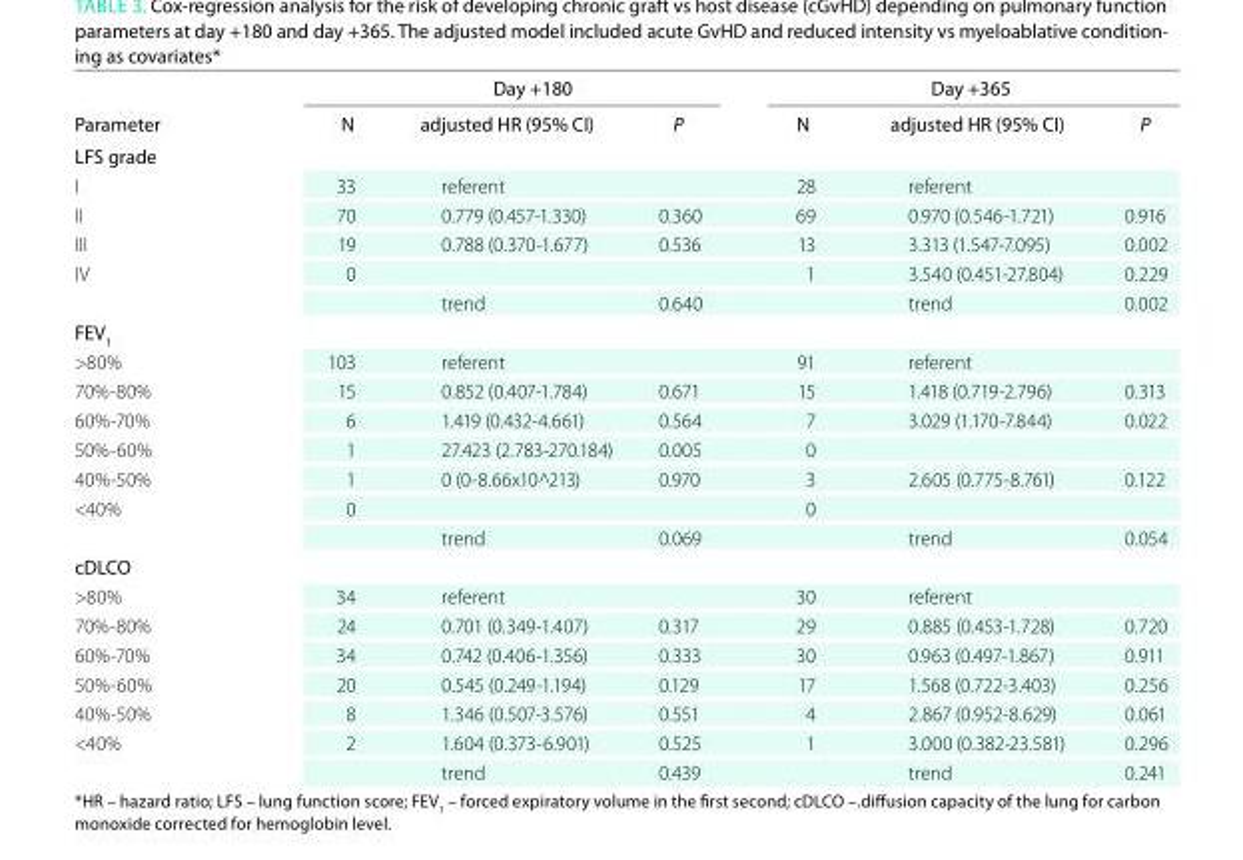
<table><thead><tr><td rowspan="2">Parameter</td><td colspan="3">Day +180</td><td colspan="3">Day +365</td></tr><tr><td>n</td><td>adjusted HR (95% Ci)</td><td>P</td><td>n</td><td>adjusted HR (95% Ci)</td><td>P</td></tr></thead><tbody><tr><td colspan="7">lFS grade</td></tr><tr><td>I</td><td>33</td><td>referent</td><td></td><td>28</td><td>referent</td><td></td></tr><tr><td>II</td><td>70</td><td>0.779 (0.457-1.330)</td><td>0.360</td><td>69</td><td>0.970 (0.546-1.721)</td><td>0.916</td></tr><tr><td>III</td><td>19</td><td>0.788 (0.370-1.677)</td><td>0.536</td><td>13</td><td>3.313 (1.547-7.095)</td><td>0.002</td></tr><tr><td rowspan="2">IV</td><td>0</td><td></td><td></td><td>1</td><td>3.540 (0.451-27.804)</td><td>0.229</td></tr><tr><td></td><td>trend</td><td>0.640</td><td></td><td>trend</td><td>0.002</td></tr><tr><td colspan="7">FEV<sub>1</sub></td></tr><tr><td>&gt;80%</td><td>103</td><td>referent</td><td></td><td>91</td><td>referent</td><td></td></tr><tr><td>70%-80%</td><td>15</td><td>0.852 (0.407-1.784)</td><td>0.671</td><td>15</td><td>1.418 (0.719-2.796)</td><td>0.313</td></tr><tr><td>60%-70%</td><td>6</td><td>1.419 (0.432-4.661)</td><td>0.564</td><td>7</td><td>3.029 (1.170-7.844)</td><td>0.022</td></tr><tr><td>50%-60%</td><td>1</td><td>27.423 (2.783-270.184)</td><td>0.005</td><td>0</td><td></td><td></td></tr><tr><td>40%-50%</td><td>1</td><td>0 (0-8.66x10^213)</td><td>0.970</td><td>3</td><td>2.605 (0.775-8.761)</td><td>0.122</td></tr><tr><td rowspan="2">&lt;40%</td><td>0</td><td></td><td></td><td>0</td><td></td><td></td></tr><tr><td></td><td>trend</td><td>0.069</td><td></td><td>trend</td><td>0.054</td></tr><tr><td colspan="7">cDlCo</td></tr><tr><td>&gt;80%</td><td>34</td><td>referent</td><td></td><td>30</td><td>referent</td><td></td></tr><tr><td>70%-80%</td><td>24</td><td>0.701 (0.349-1.407)</td><td>0.317</td><td>29</td><td>0.885 (0.453-1.728)</td><td>0.720</td></tr><tr><td>60%-70%</td><td>34</td><td>0.742 (0.406-1.356)</td><td>0.333</td><td>30</td><td>0.963 (0.497-1.867)</td><td>0.911</td></tr><tr><td>50%-60%</td><td>20</td><td>0.545 (0.249-1.194)</td><td>0.129</td><td>17</td><td>1.568 (0.722-3.403)</td><td>0.256</td></tr><tr><td>40%-50%</td><td>8</td><td>1.346 (0.507-3.576)</td><td>0.551</td><td>4</td><td>2.867 (0.952-8.629)</td><td>0.061</td></tr><tr><td rowspan="2">&lt;40%</td><td>2</td><td>1.604 (0.373-6.901)</td><td>0.525</td><td>1</td><td>3.000 (0.382-23.581)</td><td>0.296</td></tr><tr><td></td><td>trend</td><td>0.439</td><td></td><td>trend</td><td>0.241</td></tr></tbody></table>